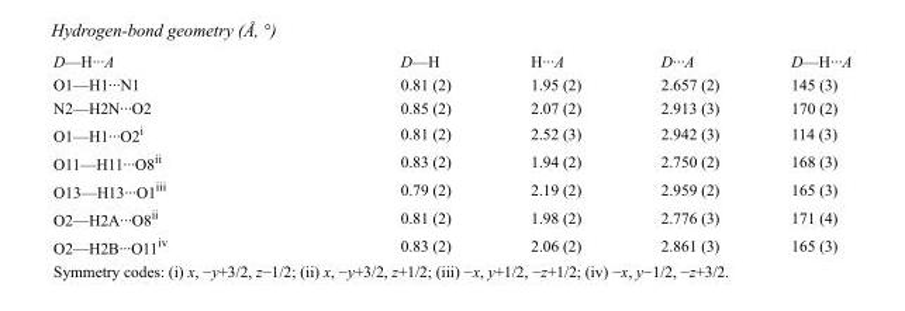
<table><tbody><tr><td>D—H···A</td><td>D—H</td><td>H···A</td><td>D···A</td><td>D—H···A</td></tr><tr><td>O1—H1···N1</td><td>0.81 (2)</td><td>1.95 (2)</td><td>2.657 (2)</td><td>145 (3)</td></tr><tr><td>N2—H2N···O2</td><td>0.85 (2)</td><td>2.07 (2)</td><td>2.913 (3)</td><td>170 (2)</td></tr><tr><td>O1—H1···O2<sup>i</sup></td><td>0.81 (2)</td><td>2.52 (3)</td><td>2.942 (3)</td><td>114 (3)</td></tr><tr><td>O11—H11···O8<sup>ii</sup></td><td>0.83 (2)</td><td>1.94 (2)</td><td>2.750 (2)</td><td>168 (3)</td></tr><tr><td>O13—H13···O1<sup>iii</sup></td><td>0.79 (2)</td><td>2.19 (2)</td><td>2.959 (2)</td><td>165 (3)</td></tr><tr><td>O2—H2A···O8<sup>ii</sup></td><td>0.81 (2)</td><td>1.98 (2)</td><td>2.776 (3)</td><td>171 (4)</td></tr><tr><td>O2—H2B···O11<sup>iv</sup></td><td>0.83 (2)</td><td>2.06 (2)</td><td>2.861 (3)</td><td>165 (3)</td></tr></tbody></table>